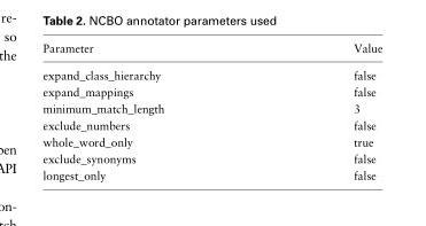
<table><thead><tr><td>Parameter</td><td>Value</td></tr></thead><tbody><tr><td>expand_class_hierarchy</td><td>false</td></tr><tr><td>expand_mappings</td><td>false</td></tr><tr><td>minimum_match_length</td><td>3</td></tr><tr><td>exclude_numbers</td><td>false</td></tr><tr><td>whole_word_only</td><td>true</td></tr><tr><td>exclude_synonyms</td><td>false</td></tr><tr><td>longest_only</td><td>false</td></tr></tbody></table>